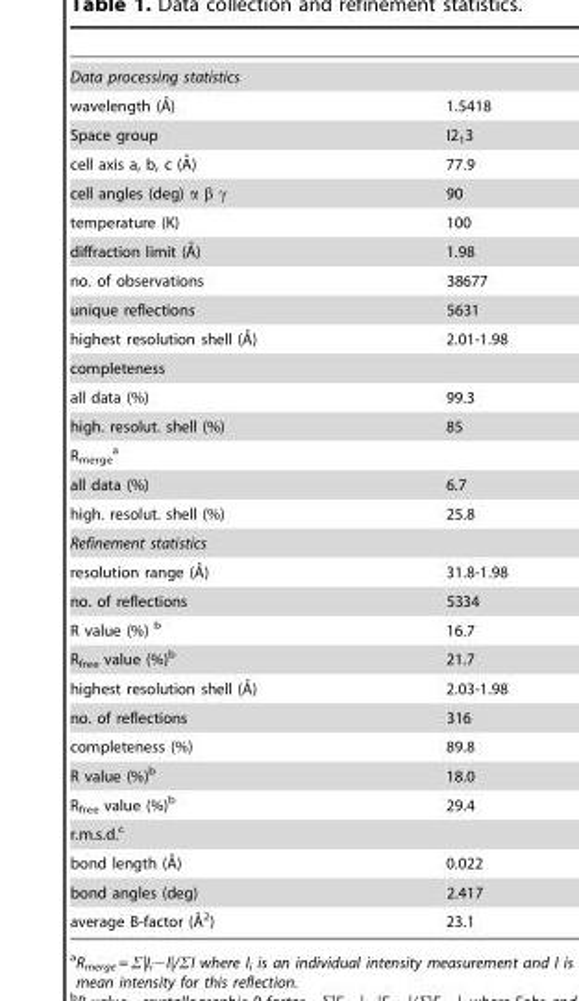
<table><tbody><tr><td colspan="2">Data processing statistics</td></tr><tr><td>wavelength (A˚)</td><td>1.5418</td></tr><tr><td>Space group</td><td>I2<sub>1</sub>3</td></tr><tr><td>cell axis a, b, c (A˚)</td><td>77.9</td></tr><tr><td>cell angles (deg) α β γ</td><td>90</td></tr><tr><td>temperature (K)</td><td>100</td></tr><tr><td>diffraction limit (A˚)</td><td>1.98</td></tr><tr><td>no. of observations</td><td>38677</td></tr><tr><td>unique reflections</td><td>5631</td></tr><tr><td>highest resolution shell (A˚)</td><td>2.01-1.98</td></tr><tr><td colspan="2">completeness</td></tr><tr><td>all data (%)</td><td>99.3</td></tr><tr><td>high. resolut. shell (%)</td><td>85</td></tr><tr><td colspan="2">R<sub>merge</sub> a</td></tr><tr><td>all data (%)</td><td>6.7</td></tr><tr><td>high. resolut. shell (%)</td><td>25.8</td></tr><tr><td colspan="2">Refinement statistics</td></tr><tr><td>resolution range (A˚)</td><td>31.8-1.98</td></tr><tr><td>no. of reflections</td><td>5334</td></tr><tr><td>R value (%) b</td><td>16.7</td></tr><tr><td>R<sub>free</sub> value (%)<sup>b</sup></td><td>21.7</td></tr><tr><td>highest resolution shell (A˚)</td><td>2.03-1.98</td></tr><tr><td>no. of reflections</td><td>316</td></tr><tr><td>completeness (%)</td><td>89.8</td></tr><tr><td>R value (%)<sup>b</sup></td><td>18.0</td></tr><tr><td>R<sub>free</sub> value (%)<sup>b</sup></td><td>29.4</td></tr><tr><td colspan="2">r.m.s.d.<sup>c</sup></td></tr><tr><td>bond length (A˚)</td><td>0.022</td></tr><tr><td>bond angles (deg)</td><td>2.417</td></tr><tr><td>average B-factor (A˚2)</td><td>23.1</td></tr></tbody></table>